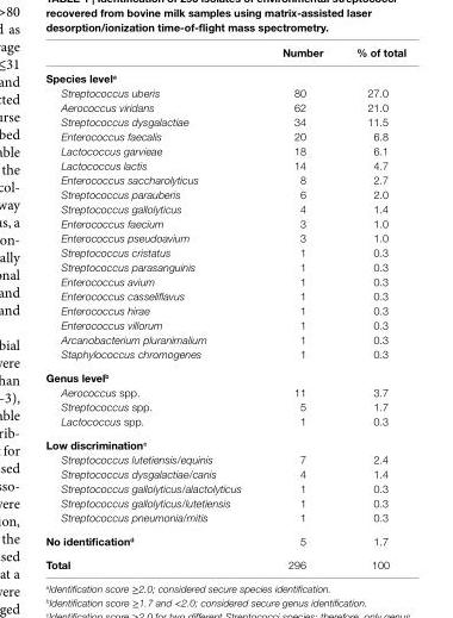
<table><thead><tr><td></td><td>number</td><td>% of total</td></tr></thead><tbody><tr><td colspan="3">species level<sup>a</sup></td></tr><tr><td>Streptococcus uberis</td><td>80</td><td>27.0</td></tr><tr><td>Aerococcus viridans</td><td>62</td><td>21.0</td></tr><tr><td>Streptococcus dysgalactiae</td><td>34</td><td>11.5</td></tr><tr><td>Enterococcus faecalis</td><td>20</td><td>6.8</td></tr><tr><td>Lactococcus garvieae</td><td>18</td><td>6.1</td></tr><tr><td>Lactococcus lactis</td><td>14</td><td>4.7</td></tr><tr><td>Enterococcus saccharolyticus</td><td>8</td><td>2.7</td></tr><tr><td>Streptococcus parauberis</td><td>6</td><td>2.0</td></tr><tr><td>Streptococcus gallolyticus</td><td>4</td><td>1.4</td></tr><tr><td>Enterococcus faecium</td><td>3</td><td>1.0</td></tr><tr><td>Enterococcus pseudoavium</td><td>3</td><td>1.0</td></tr><tr><td>Streptococcus cristatus</td><td>1</td><td>0.3</td></tr><tr><td>Streptococcus parasanguinis</td><td>1</td><td>0.3</td></tr><tr><td>Enterococcus avium</td><td>1</td><td>0.3</td></tr><tr><td>Enterococcus casseliflavus</td><td>1</td><td>0.3</td></tr><tr><td>Enterococcus hirae</td><td>1</td><td>0.3</td></tr><tr><td>Enterococcus villorum</td><td>1</td><td>0.3</td></tr><tr><td>Arcanobacterium pluranimalium</td><td>1</td><td>0.3</td></tr><tr><td>Staphylococcus chromogenes</td><td>1</td><td>0.3</td></tr><tr><td colspan="3">genus level<sup>b</sup></td></tr><tr><td>Aerococcus spp.</td><td>11</td><td>3.7</td></tr><tr><td>Streptococcus spp.</td><td>5</td><td>1.7</td></tr><tr><td>Lactococcus spp.</td><td>1</td><td>0.3</td></tr><tr><td colspan="3">low discrimination<sup>c</sup></td></tr><tr><td>Streptococcus lutetiensis/equinis</td><td>7</td><td>2.4</td></tr><tr><td>Streptococcus dysgalactiae/canis</td><td>4</td><td>1.4</td></tr><tr><td>Streptococcus gallolyticus/alactolyticus</td><td>1</td><td>0.3</td></tr><tr><td>Streptococcus gallolyticus/lutetiensis</td><td>1</td><td>0.3</td></tr><tr><td>Streptococcus pneumonia/mitis</td><td>1</td><td>0.3</td></tr><tr><td>no identification<sup>d</sup></td><td>5</td><td>1.7</td></tr><tr><td>Total</td><td>296</td><td>100</td></tr></tbody></table>